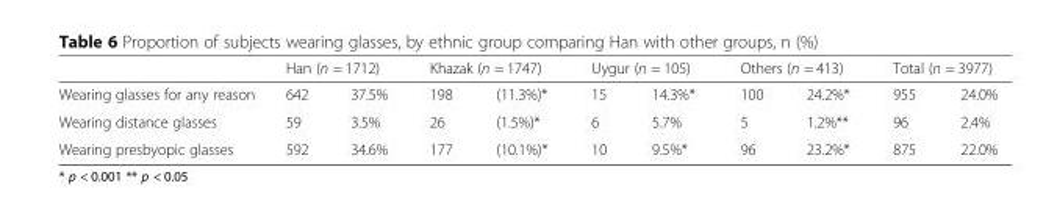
<table><thead><tr><td rowspan="2">Wearing glasses for any reason</td><td colspan="2">Han (n = 1712)</td><td colspan="2">Khazak (n = 1747)</td><td colspan="2">Uygur (n = 105)</td><td colspan="2">Others (n = 413)</td><td colspan="2">Total (n = 3977)</td></tr><tr><td>642</td><td>37.5%</td><td>198</td><td>(11.3%)*</td><td>15</td><td>14.3%*</td><td>100</td><td>24.2%*</td><td>955</td><td>24.0%</td></tr></thead><tbody><tr><td>Wearing distance glasses</td><td>59</td><td>3.5%</td><td>26</td><td>(1.5%)*</td><td>6</td><td>5.7%</td><td>5</td><td>1.2%**</td><td>96</td><td>2.4%</td></tr><tr><td>Wearing presbyopic glasses</td><td>592</td><td>34.6%</td><td>177</td><td>(10.1%)*</td><td>10</td><td>9.5%*</td><td>96</td><td>23.2%*</td><td>875</td><td>22.0%</td></tr></tbody></table>